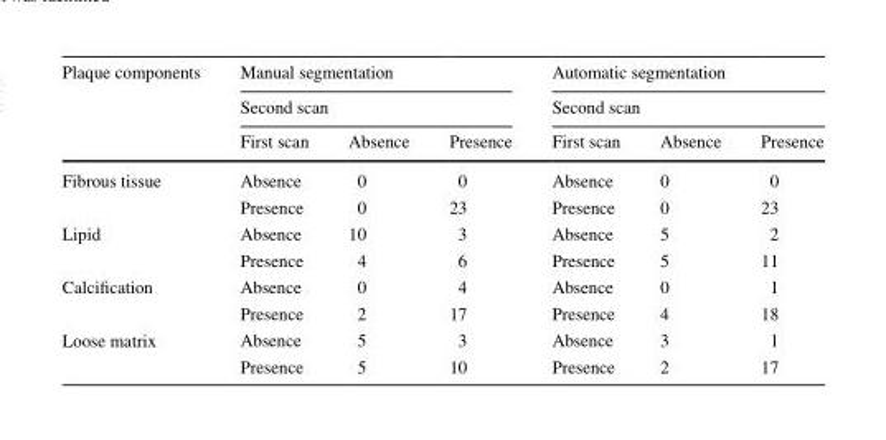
<table><thead><tr><td rowspan="3">Plaque components</td><td rowspan="2" colspan="3">Manual segmentation Second scan</td><td rowspan="2" colspan="3">Automatic segmentation Second scan</td></tr><tr></tr><tr><td>First scan</td><td>Absence</td><td>Presence</td><td>First scan</td><td>Absence</td><td>Presence</td></tr></thead><tbody><tr><td rowspan="2">Fibrous tissue</td><td>Absence</td><td>0</td><td>0</td><td>Absence</td><td>0</td><td>0</td></tr><tr><td>Presence</td><td>0</td><td>23</td><td>Presence</td><td>0</td><td>23</td></tr><tr><td rowspan="2">Lipid</td><td>Absence</td><td>10</td><td>3</td><td>Absence</td><td>5</td><td>2</td></tr><tr><td>Presence</td><td>4</td><td>6</td><td>Presence</td><td>5</td><td>11</td></tr><tr><td rowspan="2">Calcification</td><td>Absence</td><td>0</td><td>4</td><td>Absence</td><td>0</td><td>1</td></tr><tr><td>Presence</td><td>2</td><td>17</td><td>Presence</td><td>4</td><td>18</td></tr><tr><td rowspan="2">Loose matrix</td><td>Absence</td><td>5</td><td>3</td><td>Absence</td><td>3</td><td>1</td></tr><tr><td>Presence</td><td>5</td><td>10</td><td>Presence</td><td>2</td><td>17</td></tr></tbody></table>